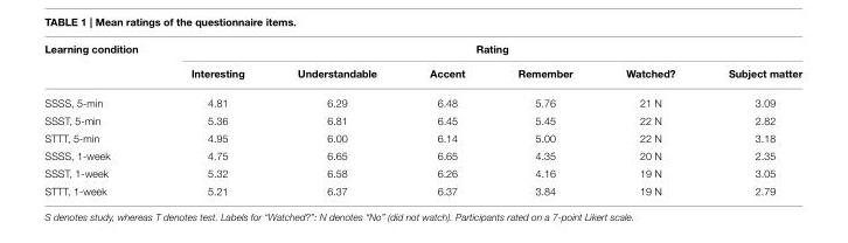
<table><thead><tr><td rowspan="2">Learning condition</td><td colspan="6">Rating</td></tr><tr><td>Interesting</td><td>Understandable</td><td>Accent</td><td>Remember</td><td>Watched?</td><td>Subject matter</td></tr></thead><tbody><tr><td>SSSS, 5-min</td><td>4.81</td><td>6.29</td><td>6.48</td><td>5.76</td><td>21 N</td><td>3.09</td></tr><tr><td>SSST, 5-min</td><td>5.36</td><td>6.81</td><td>6.45</td><td>5.45</td><td>22 N</td><td>2.82</td></tr><tr><td>STTT, 5-min</td><td>4.95</td><td>6.00</td><td>6.14</td><td>5.00</td><td>22 N</td><td>3.18</td></tr><tr><td>SSSS, 1-week</td><td>4.75</td><td>6.65</td><td>6.65</td><td>4.35</td><td>20 N</td><td>2.35</td></tr><tr><td>SSST, 1-week</td><td>5.32</td><td>6.58</td><td>6.26</td><td>4.16</td><td>19 N</td><td>3.05</td></tr><tr><td>STTT, 1-week</td><td>5.21</td><td>6.37</td><td>6.37</td><td>3.84</td><td>19 N</td><td>2.79</td></tr></tbody></table>